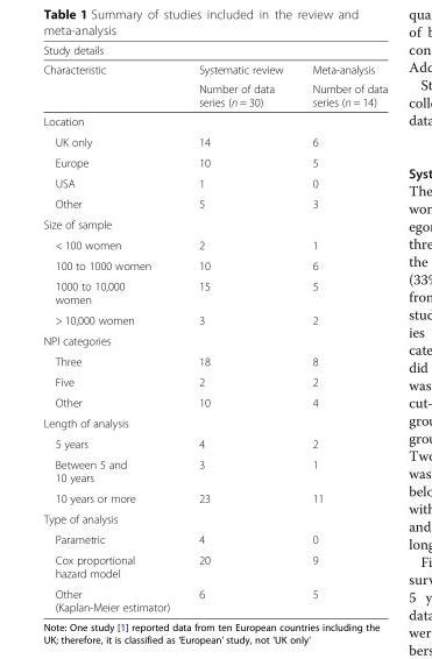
<table><thead><tr><td colspan="3">Study details</td></tr><tr><td rowspan="2">Characteristic</td><td rowspan="2">Systematic review Number of data series (n = 30)</td><td rowspan="2">Meta-analysis Number of data series (n = 14)</td></tr><tr></tr></thead><tbody><tr><td colspan="3">Location</td></tr><tr><td>UK only</td><td>14</td><td>6</td></tr><tr><td>Europe</td><td>10</td><td>5</td></tr><tr><td>USA</td><td>1</td><td>0</td></tr><tr><td>Other</td><td>5</td><td>3</td></tr><tr><td colspan="3">Size of sample</td></tr><tr><td>&lt; 100 women</td><td>2</td><td>1</td></tr><tr><td>100 to 1000 women</td><td>10</td><td>6</td></tr><tr><td>1000 to 10,000 women</td><td>15</td><td>5</td></tr><tr><td>&gt; 10,000 women</td><td>3</td><td>2</td></tr><tr><td colspan="3">NPI categories</td></tr><tr><td>Three</td><td>18</td><td>8</td></tr><tr><td>Five</td><td>2</td><td>2</td></tr><tr><td>Other</td><td>10</td><td>4</td></tr><tr><td colspan="3">Length of analysis</td></tr><tr><td>5 years</td><td>4</td><td>2</td></tr><tr><td>Between 5 and 10 years</td><td>3</td><td>1</td></tr><tr><td>10 years or more</td><td>23</td><td>11</td></tr><tr><td colspan="3">Type of analysis</td></tr><tr><td>Parametric</td><td>4</td><td>0</td></tr><tr><td>Cox proportional hazard model</td><td>20</td><td>9</td></tr><tr><td>Other (Kaplan-Meier estimator)</td><td>6</td><td>5</td></tr></tbody></table>